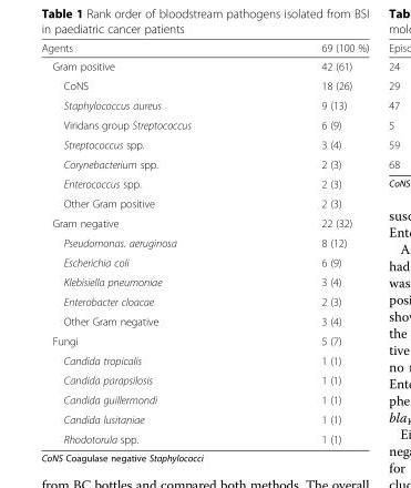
<table><thead><tr><td>Agents</td><td>69 (100 %)</td></tr></thead><tbody><tr><td>Gram positive</td><td>42 (61)</td></tr><tr><td>CoNS</td><td>18 (26)</td></tr><tr><td>Staphylococcus aureus</td><td>9 (13)</td></tr><tr><td>Viridans group Streptococcus</td><td>6 (9)</td></tr><tr><td>Streptococcus spp.</td><td>3 (4)</td></tr><tr><td>Corynebacterium spp.</td><td>2 (3)</td></tr><tr><td>Enterococcus spp.</td><td>2 (3)</td></tr><tr><td>Other Gram positive</td><td>2 (3)</td></tr><tr><td>Gram negative</td><td>22 (32)</td></tr><tr><td>Pseudomonas. aeruginosa</td><td>8 (12)</td></tr><tr><td>Escherichia coli</td><td>6 (9)</td></tr><tr><td>Klebisiella pneumoniae</td><td>3 (4)</td></tr><tr><td>Enterobacter cloacae</td><td>2 (3)</td></tr><tr><td>Other Gram negative</td><td>3 (4)</td></tr><tr><td>Fungi</td><td>5 (7)</td></tr><tr><td>Candida tropicalis</td><td>1 (1)</td></tr><tr><td>Candida parapsilosis</td><td>1 (1)</td></tr><tr><td>Candida guillermondi</td><td>1 (1)</td></tr><tr><td>Candida lusitaniae</td><td>1 (1)</td></tr><tr><td>Rhodotorula spp.</td><td>1 (1)</td></tr></tbody></table>